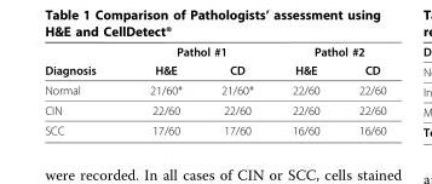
<table><thead><tr><td rowspan="2">Diagnosis</td><td colspan="2">Pathol #1</td><td colspan="2">Pathol #2</td></tr><tr><td>H&amp;E</td><td>CD</td><td>H&amp;E</td><td>CD</td></tr></thead><tbody><tr><td>Normal</td><td>21/60*</td><td>21/60*</td><td>22/60</td><td>22/60</td></tr><tr><td>CIN</td><td>22/60</td><td>22/60</td><td>22/60</td><td>22/60</td></tr><tr><td>SCC</td><td>17/60</td><td>17/60</td><td>16/60</td><td>16/60</td></tr></tbody></table>